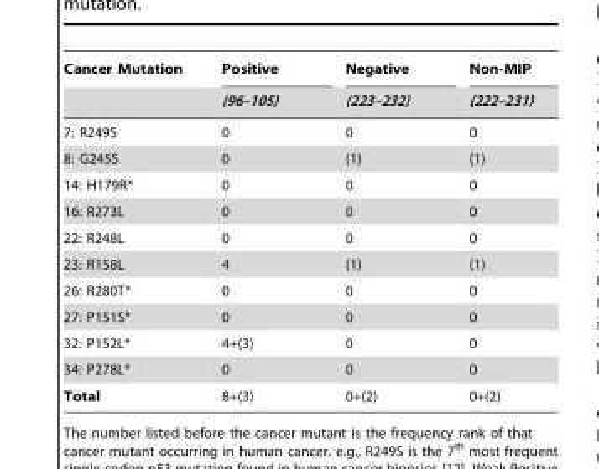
<table><thead><tr><td rowspan="2">Cancer Mutation</td><td rowspan="2">Positive (96–105)</td><td rowspan="2">Negative (223–232)</td><td rowspan="2">Non-MIP (222–231)</td></tr><tr></tr></thead><tbody><tr><td>7: R249S</td><td>0</td><td>0</td><td>0</td></tr><tr><td>8: G245S</td><td>0</td><td>(1)</td><td>(1)</td></tr><tr><td>14: H179R*</td><td>0</td><td>0</td><td>0</td></tr><tr><td>16: R273L</td><td>0</td><td>0</td><td>0</td></tr><tr><td>22: R248L</td><td>0</td><td>0</td><td>0</td></tr><tr><td>23: R158L</td><td>4</td><td>(1)</td><td>(1)</td></tr><tr><td>26: R280T*</td><td>0</td><td>0</td><td>0</td></tr><tr><td>27: P151S*</td><td>0</td><td>0</td><td>0</td></tr><tr><td>32: P152L*</td><td>4+(3)</td><td>0</td><td>0</td></tr><tr><td>34: P278L*</td><td>0</td><td>0</td><td>0</td></tr><tr><td>Total</td><td>8+(3)</td><td>0+(2)</td><td>0+(2)</td></tr></tbody></table>